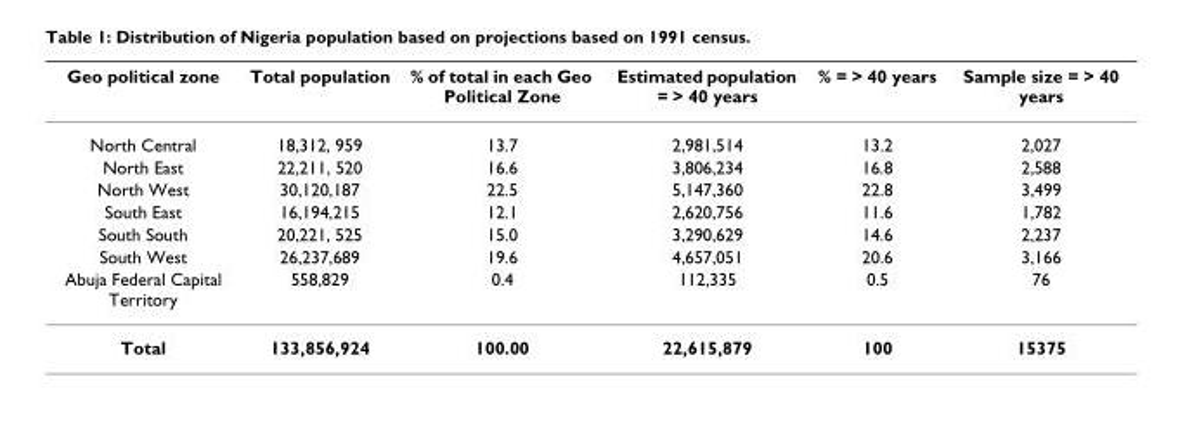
<table><thead><tr><td>Geo political zone</td><td>Total population</td><td>% of total in each Geo Political Zone</td><td>Estimated population = &gt; 40 years</td><td>% = &gt; 40 years</td><td>Sample size = &gt; 40 years</td></tr></thead><tbody><tr><td>North Central</td><td>18,312, 959</td><td>13.7</td><td>2,981,514</td><td>13.2</td><td>2,027</td></tr><tr><td>North East</td><td>22,211, 520</td><td>16.6</td><td>3,806,234</td><td>16.8</td><td>2,588</td></tr><tr><td>North West</td><td>30,120,187</td><td>22.5</td><td>5,147,360</td><td>22.8</td><td>3,499</td></tr><tr><td>South East</td><td>16,194,215</td><td>12.1</td><td>2,620,756</td><td>11.6</td><td>1,782</td></tr><tr><td>South South</td><td>20,221, 525</td><td>15.0</td><td>3,290,629</td><td>14.6</td><td>2,237</td></tr><tr><td>South West</td><td>26,237,689</td><td>19.6</td><td>4,657,051</td><td>20.6</td><td>3,166</td></tr><tr><td>Abuja Federal Capital Territory</td><td>558,829</td><td>0.4</td><td>112,335</td><td>0.5</td><td>76</td></tr><tr><td>Total</td><td>133,856,924</td><td>100.00</td><td>22,615,879</td><td>100</td><td>15375</td></tr></tbody></table>